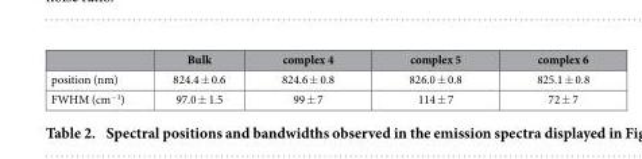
<table><thead><tr><td></td><td>Bulk</td><td>complex 4</td><td>complex 5</td><td>complex 6</td></tr></thead><tbody><tr><td>position (nm)</td><td>824.4 ± 0.6</td><td>824.6 ± 0.8</td><td>826.0 ± 0.8</td><td>825.1 ± 0.8</td></tr><tr><td>FWHM (cm<sup>−1</sup>)</td><td>97.0 ± 1.5</td><td>99 ± 7</td><td>114 ± 7</td><td>72 ± 7</td></tr></tbody></table>